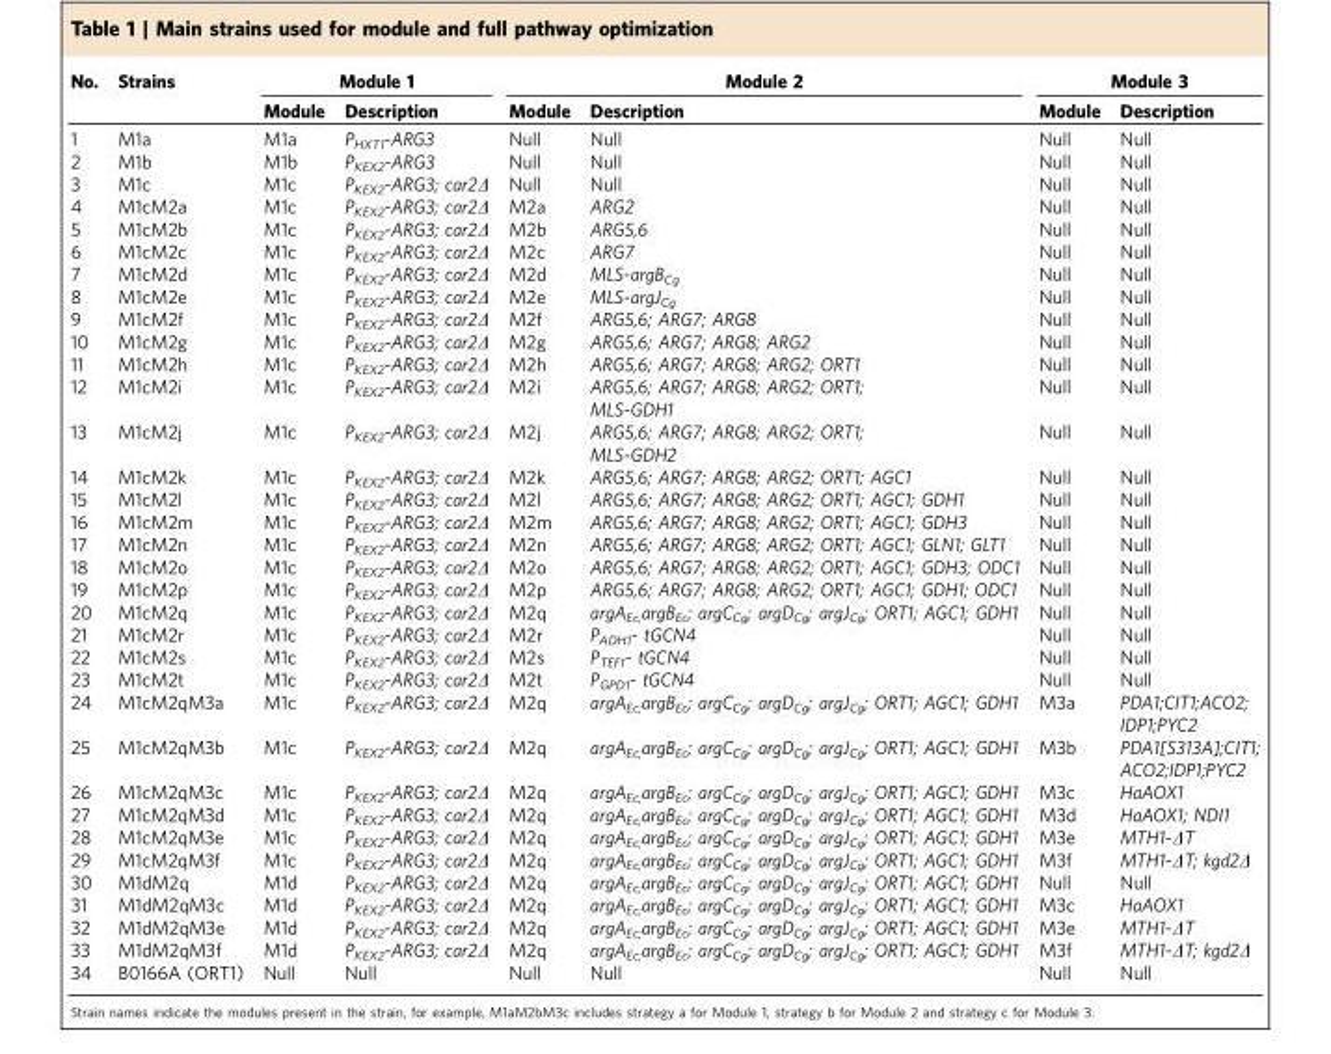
<table><thead><tr><td rowspan="2">No.</td><td rowspan="2">Strains</td><td colspan="2">Module 1</td><td colspan="2">Module 2</td><td colspan="2">Module 3</td></tr><tr><td>Module</td><td>Description</td><td>Module</td><td>Description</td><td>Module</td><td>Description</td></tr></thead><tbody><tr><td>1</td><td>M1a</td><td>M1a</td><td>P<sub>HXT1</sub>-ARG3</td><td>Null</td><td>Null</td><td>Null</td><td>Null</td></tr><tr><td>2</td><td>M1b</td><td>M1b</td><td>P<sub>KEX2</sub>-ARG3</td><td>Null</td><td>Null</td><td>Null</td><td>Null</td></tr><tr><td>3</td><td>M1c</td><td>M1c</td><td>P<sub>KEX2</sub>-ARG3; car2Δ</td><td>Null</td><td>Null</td><td>Null</td><td>Null</td></tr><tr><td>4</td><td>M1cM2a</td><td>M1c</td><td>P<sub>KEX2</sub>-ARG3; car2Δ</td><td>M2a</td><td>ARG2</td><td>Null</td><td>Null</td></tr><tr><td>5</td><td>M1cM2b</td><td>M1c</td><td>P<sub>KEX2</sub>-ARG3; car2Δ</td><td>M2b</td><td>ARG5,6</td><td>Null</td><td>Null</td></tr><tr><td>6</td><td>M1cM2c</td><td>M1c</td><td>P<sub>KEX2</sub>-ARG3; car2Δ</td><td>M2c</td><td>ARG7</td><td>Null</td><td>Null</td></tr><tr><td>7</td><td>M1cM2d</td><td>M1c</td><td>P<sub>KEX2</sub>-ARG3; car2Δ</td><td>M2d</td><td>MLS-argB<sub>Cg</sub></td><td>Null</td><td>Null</td></tr><tr><td>8</td><td>M1cM2e</td><td>M1c</td><td>P<sub>KEX2</sub>-ARG3; car2Δ</td><td>M2e</td><td>MLS-argJ<sub>Cg</sub></td><td>Null</td><td>Null</td></tr><tr><td>9</td><td>M1cM2f</td><td>M1c</td><td>P<sub>KEX2</sub>-ARG3; car2Δ</td><td>M2f</td><td>ARG5,6; ARG7; ARG8</td><td>Null</td><td>Null</td></tr><tr><td>10</td><td>M1cM2g</td><td>M1c</td><td>P<sub>KEX2</sub>-ARG3; car2Δ</td><td>M2g</td><td>ARG5,6; ARG7; ARG8; ARG2</td><td>Null</td><td>Null</td></tr><tr><td>11</td><td>M1cM2h</td><td>M1c</td><td>P<sub>KEX2</sub>-ARG3; car2Δ</td><td>M2h</td><td>ARG5,6; ARG7; ARG8; ARG2; ORT1</td><td>Null</td><td>Null</td></tr><tr><td>12</td><td>M1cM2i</td><td>M1c</td><td>P<sub>KEX2</sub>-ARG3; car2Δ</td><td>M2i</td><td>ARG5,6; ARG7; ARG8; ARG2; ORT1; MLS-GDH1</td><td>Null</td><td>Null</td></tr><tr><td>13</td><td>M1cM2j</td><td>M1c</td><td>P<sub>KEX2</sub>-ARG3; car2Δ</td><td>M2j</td><td>ARG5,6; ARG7; ARG8; ARG2; ORT1; MLS-GDH2</td><td>Null</td><td>Null</td></tr><tr><td>14</td><td>M1cM2k</td><td>M1c</td><td>P<sub>KEX2</sub>-ARG3; car2Δ</td><td>M2k</td><td>ARG5,6; ARG7; ARG8; ARG2; ORT1; AGC1</td><td>Null</td><td>Null</td></tr><tr><td>15</td><td>M1cM2l</td><td>M1c</td><td>P<sub>KEX2</sub>-ARG3; car2Δ</td><td>M2l</td><td>ARG5,6; ARG7; ARG8; ARG2; ORT1; AGC1; GDH1</td><td>Null</td><td>Null</td></tr><tr><td>16</td><td>M1cM2m</td><td>M1c</td><td>P<sub>KEX2</sub>-ARG3; car2Δ</td><td>M2m</td><td>ARG5,6; ARG7; ARG8; ARG2; ORT1; AGC1; GDH3</td><td>Null</td><td>Null</td></tr><tr><td>17</td><td>M1cM2n</td><td>M1c</td><td>P<sub>KEX2</sub>-ARG3; car2Δ</td><td>M2n</td><td>ARG5,6; ARG7; ARG8; ARG2; ORT1; AGC1; GLN1; GLT1</td><td>Null</td><td>Null</td></tr><tr><td>18</td><td>M1cM2o</td><td>M1c</td><td>P<sub>KEX2</sub>-ARG3; car2Δ</td><td>M2o</td><td>ARG5,6; ARG7; ARG8; ARG2; ORT1; AGC1; GDH3; ODC1</td><td>Null</td><td>Null</td></tr><tr><td>19</td><td>M1cM2p</td><td>M1c</td><td>P<sub>KEX2</sub>-ARG3; car2Δ</td><td>M2p</td><td>ARG5,6; ARG7; ARG8; ARG2; ORT1; AGC1; GDH1; ODC1</td><td>Null</td><td>Null</td></tr><tr><td>20</td><td>M1cM2q</td><td>M1c</td><td>P<sub>KEX2</sub>-ARG3; car2Δ</td><td>M2q</td><td>argA<sub>Ec;</sub>argB<sub>Ec</sub>; argC<sub>Cg</sub>; argD<sub>Cg</sub>; argJ<sub>Cg</sub>; ORT1; AGC1; GDH1</td><td>Null</td><td>Null</td></tr><tr><td>21</td><td>M1cM2r</td><td>M1c</td><td>P<sub>KEX2</sub>-ARG3; car2Δ</td><td>M2r</td><td>P<sub>ADH1</sub>- tGCN4</td><td>Null</td><td>Null</td></tr><tr><td>22</td><td>M1cM2s</td><td>M1c</td><td>P<sub>KEX2</sub>-ARG3; car2Δ</td><td>M2s</td><td>P<sub>TEF1</sub>- tGCN4</td><td>Null</td><td>Null</td></tr><tr><td>23</td><td>M1cM2t</td><td>M1c</td><td>P<sub>KEX2</sub>-ARG3; car2Δ</td><td>M2t</td><td>P<sub>GPD1</sub>- tGCN4</td><td>Null</td><td>Null</td></tr><tr><td>24</td><td>M1cM2qM3a</td><td>M1c</td><td>P<sub>KEX2</sub>-ARG3; car2Δ</td><td>M2q</td><td>argA<sub>Ec;</sub>argB<sub>Ec</sub>; argC<sub>Cg</sub>; argD<sub>Cg</sub>; argJ<sub>Cg</sub>; ORT1; AGC1; GDH1</td><td>M3a</td><td>PDA1;CIT1;ACO2; IDP1;PYC2</td></tr><tr><td>25</td><td>M1cM2qM3b</td><td>M1c</td><td>P<sub>KEX2</sub>-ARG3; car2Δ</td><td>M2q</td><td>argA<sub>Ec;</sub>argB<sub>Ec</sub>; argC<sub>Cg</sub>; argD<sub>Cg</sub>; argJ<sub>Cg</sub>; ORT1; AGC1; GDH1</td><td>M3b</td><td>PDA1[S313A];CIT1; ACO2;IDP1;PYC2</td></tr><tr><td>26</td><td>M1cM2qM3c</td><td>M1c</td><td>P<sub>KEX2</sub>-ARG3; car2Δ</td><td>M2q</td><td>argA<sub>Ec;</sub>argB<sub>Ec</sub>; argC<sub>Cg</sub>; argD<sub>Cg</sub>; argJ<sub>Cg</sub>; ORT1; AGC1; GDH1</td><td>M3c</td><td>HaAOX1</td></tr><tr><td>27</td><td>M1cM2qM3d</td><td>M1c</td><td>P<sub>KEX2</sub>-ARG3; car2Δ</td><td>M2q</td><td>argA<sub>Ec;</sub>argB<sub>Ec</sub>; argC<sub>Cg</sub>; argD<sub>Cg</sub>; argJ<sub>Cg</sub>; ORT1; AGC1; GDH1</td><td>M3d</td><td>HaAOX1; NDI1</td></tr><tr><td>28</td><td>M1cM2qM3e</td><td>M1c</td><td>P<sub>KEX2</sub>-ARG3; car2Δ</td><td>M2q</td><td>argA<sub>Ec;</sub>argB<sub>Ec</sub>; argC<sub>Cg</sub>; argD<sub>Cg</sub>; argJ<sub>Cg</sub>; ORT1; AGC1; GDH1</td><td>M3e</td><td>MTH1-ΔT</td></tr><tr><td>29</td><td>M1cM2qM3f</td><td>M1c</td><td>P<sub>KEX2</sub>-ARG3; car2Δ</td><td>M2q</td><td>argA<sub>Ec;</sub>argB<sub>Ec</sub>; argC<sub>Cg</sub>; argD<sub>Cg</sub>; argJ<sub>Cg</sub>; ORT1; AGC1; GDH1</td><td>M3f</td><td>MTH1-ΔT; kgd2Δ</td></tr><tr><td>30</td><td>M1dM2q</td><td>M1d</td><td>P<sub>KEX2</sub>-ARG3; car2Δ</td><td>M2q</td><td>argA<sub>Ec;</sub>argB<sub>Ec</sub>; argC<sub>Cg</sub>; argD<sub>Cg</sub>; argJ<sub>Cg</sub>; ORT1; AGC1; GDH1</td><td>Null</td><td>Null</td></tr><tr><td>31</td><td>M1dM2qM3c</td><td>M1d</td><td>P<sub>KEX2</sub>-ARG3; car2Δ</td><td>M2q</td><td>argA<sub>Ec;</sub>argB<sub>Ec</sub>; argC<sub>Cg</sub>; argD<sub>Cg</sub>; argJ<sub>Cg</sub>; ORT1; AGC1; GDH1</td><td>M3c</td><td>HaAOX1</td></tr><tr><td>32</td><td>M1dM2qM3e</td><td>M1d</td><td>P<sub>KEX2</sub>-ARG3; car2Δ</td><td>M2q</td><td>argA<sub>Ec;</sub>argB<sub>Ec</sub>; argC<sub>Cg</sub>; argD<sub>Cg</sub>; argJ<sub>Cg</sub>; ORT1; AGC1; GDH1</td><td>M3e</td><td>MTH1-ΔT</td></tr><tr><td>33</td><td>M1dM2qM3f</td><td>M1d</td><td>P<sub>KEX2</sub>-ARG3; car2Δ</td><td>M2q</td><td>argA<sub>Ec;</sub>argB<sub>Ec</sub>; argC<sub>Cg</sub>; argD<sub>Cg</sub>; argJ<sub>Cg</sub>; ORT1; AGC1; GDH1</td><td>M3f</td><td>MTH1-ΔT; kgd2Δ</td></tr><tr><td>34</td><td>B0166A (ORT1)</td><td>Null</td><td>Null</td><td>Null</td><td>Null</td><td>Null</td><td>Null</td></tr></tbody></table>